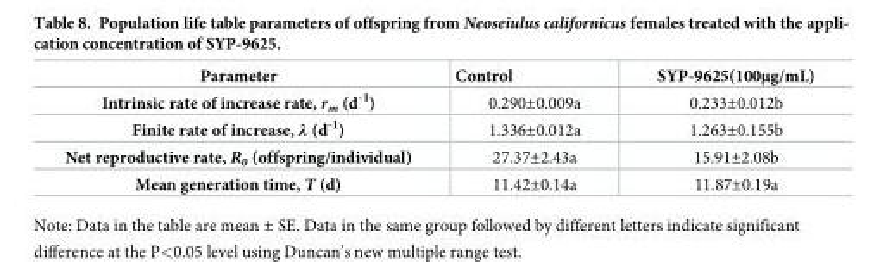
<table><thead><tr><td>Parameter</td><td>Control</td><td>SYP-9625(100μg/mL)</td></tr></thead><tbody><tr><td>Intrinsic rate of increase rate, r<sub>m</sub> (d<sup>-1</sup>)</td><td>0.290±0.009a</td><td>0.233±0.012b</td></tr><tr><td>Finite rate of increase, λ (d<sup>-1</sup>)</td><td>1.336±0.012a</td><td>1.263±0.155b</td></tr><tr><td>Net reproductive rate, R<sub>0</sub> (offspring/individual)</td><td>27.37±2.43a</td><td>15.91±2.08b</td></tr><tr><td>Mean generation time, T (d)</td><td>11.42±0.14a</td><td>11.87±0.19a</td></tr></tbody></table>